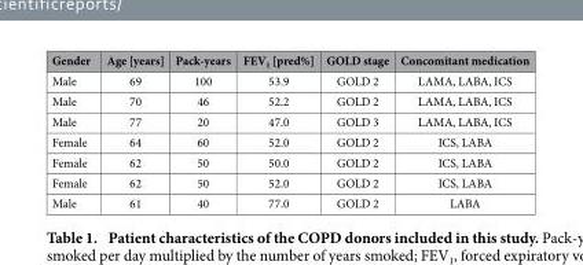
<table><thead><tr><td>Gender</td><td>Age [years]</td><td>Pack-years</td><td>FEV<sub>1</sub> [pred%]</td><td>GOLD stage</td><td>Concomitant medication</td></tr></thead><tbody><tr><td>Male</td><td>69</td><td>100</td><td>53.9</td><td>GOLD 2</td><td>LAMA, LABA, ICS</td></tr><tr><td>Male</td><td>70</td><td>46</td><td>52.2</td><td>GOLD 2</td><td>LAMA, LABA, ICS</td></tr><tr><td>Male</td><td>77</td><td>20</td><td>47.0</td><td>GOLD 3</td><td>LAMA, LABA, ICS</td></tr><tr><td>Female</td><td>64</td><td>60</td><td>52.0</td><td>GOLD 2</td><td>ICS, LABA</td></tr><tr><td>Female</td><td>62</td><td>50</td><td>50.0</td><td>GOLD 2</td><td>ICS, LABA</td></tr><tr><td>Female</td><td>62</td><td>50</td><td>52.0</td><td>GOLD 2</td><td>ICS, LABA</td></tr><tr><td>Male</td><td>61</td><td>40</td><td>77.0</td><td>GOLD 2</td><td>LABA</td></tr></tbody></table>